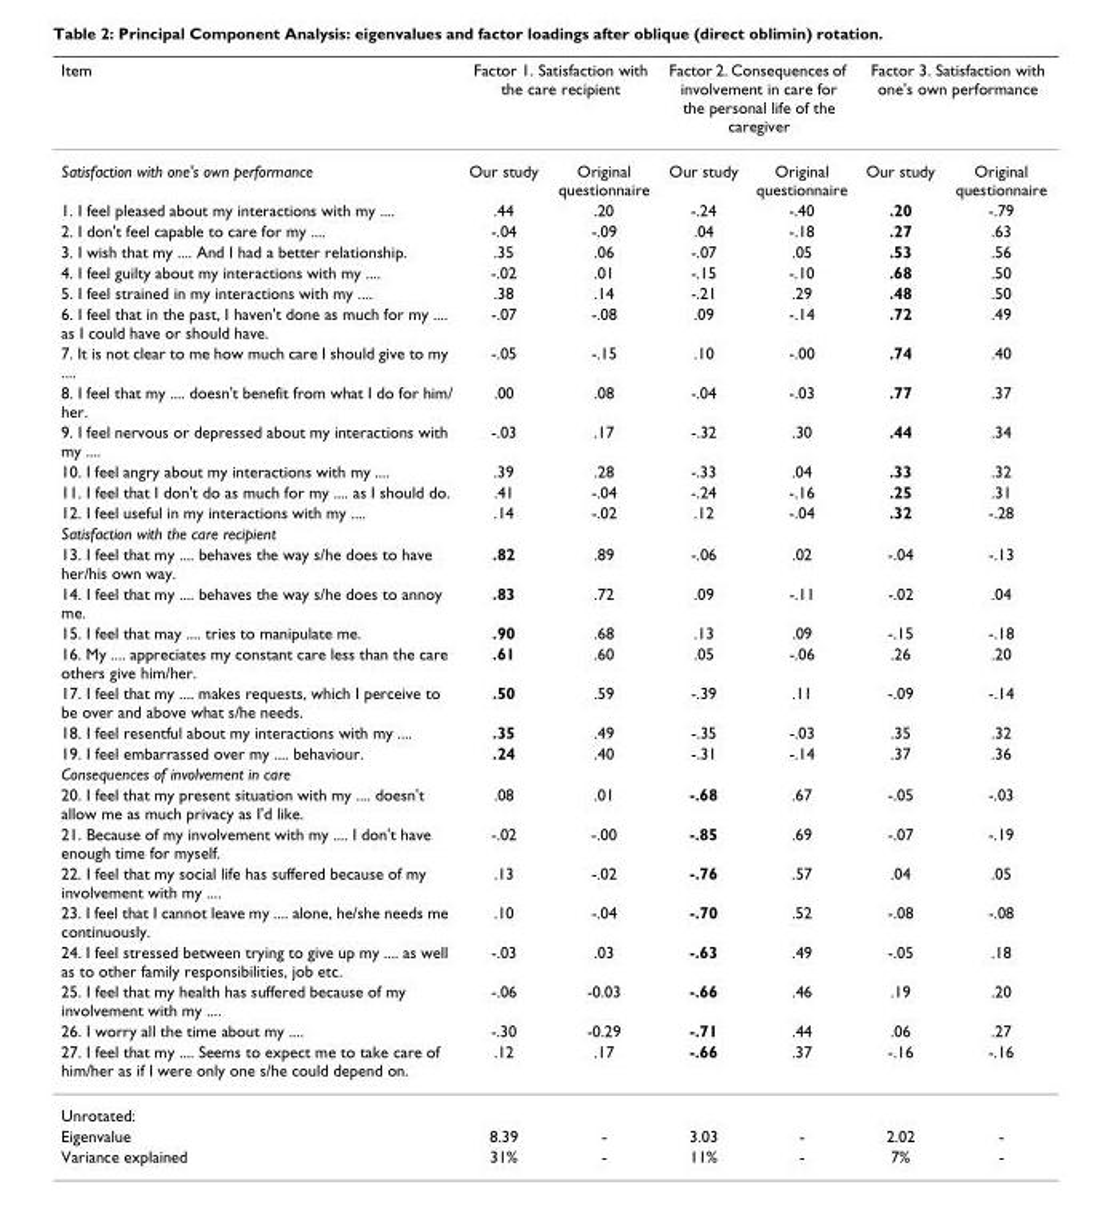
<table><thead><tr><td rowspan="2">Item Satisfaction with one&#x27;s own performance</td><td colspan="2">Factor 1. Satisfaction with the care recipient</td><td colspan="2">Factor 2. Consequences of involvement in care for the personal life of the caregiver</td><td colspan="2">Factor 3. Satisfaction with one&#x27;s own performance</td></tr><tr><td>Our study</td><td>Original questionnaire</td><td>Our study</td><td>Original questionnaire</td><td>Our study</td><td>Original questionnaire</td></tr></thead><tbody><tr><td>1. I feel pleased about my interactions with my ....</td><td>.44</td><td>.20</td><td>-.24</td><td>-.40</td><td>.20</td><td>-.79</td></tr><tr><td>2. I don&#x27;t feel capable to care for my ....</td><td>-.04</td><td>-.09</td><td>.04</td><td>-.18</td><td>.27</td><td>.63</td></tr><tr><td>3. I wish that my .... And I had a better relationship.</td><td>.35</td><td>.06</td><td>-.07</td><td>.05</td><td>.53</td><td>.56</td></tr><tr><td>4. I feel guilty about my interactions with my ....</td><td>-.02</td><td>.01</td><td>-.15</td><td>-.10</td><td>.68</td><td>.50</td></tr><tr><td>5. I feel strained in my interactions with my ....</td><td>.38</td><td>.14</td><td>-.21</td><td>.29</td><td>.48</td><td>.50</td></tr><tr><td>6. I feel that in the past, I haven&#x27;t done as much for my .... as I could have or should have.</td><td>-.07</td><td>-.08</td><td>.09</td><td>-.14</td><td>.72</td><td>.49</td></tr><tr><td>7. It is not clear to me how much care I should give to my ....</td><td>-.05</td><td>-.15</td><td>.10</td><td>-.00</td><td>.74</td><td>.40</td></tr><tr><td>8. I feel that my .... doesn&#x27;t benefit from what I do for him/ her.</td><td>.00</td><td>.08</td><td>-.04</td><td>-.03</td><td>.77</td><td>.37</td></tr><tr><td>9. I feel nervous or depressed about my interactions with my ....</td><td>-.03</td><td>.17</td><td>-.32</td><td>.30</td><td>.44</td><td>.34</td></tr><tr><td>10. I feel angry about my interactions with my ....</td><td>.39</td><td>.28</td><td>-.33</td><td>.04</td><td>.33</td><td>.32</td></tr><tr><td>11. I feel that I don&#x27;t do as much for my .... as I should do.</td><td>.41</td><td>-.04</td><td>-.24</td><td>-.16</td><td>.25</td><td>.31</td></tr><tr><td>12. I feel useful in my interactions with my ....</td><td>.14</td><td>-.02</td><td>.12</td><td>-.04</td><td>.32</td><td>-.28</td></tr><tr><td colspan="7">Satisfaction with the care recipient</td></tr><tr><td>13. I feel that my .... behaves the way s/he does to have her/his own way.</td><td>.82</td><td>.89</td><td>-.06</td><td>.02</td><td>-.04</td><td>-.13</td></tr><tr><td>14. I feel that my .... behaves the way s/he does to annoy me.</td><td>.83</td><td>.72</td><td>.09</td><td>-.11</td><td>-.02</td><td>.04</td></tr><tr><td>15. I feel that may .... tries to manipulate me.</td><td>.90</td><td>.68</td><td>.13</td><td>.09</td><td>-.15</td><td>-.18</td></tr><tr><td>16. My .... appreciates my constant care less than the care others give him/her.</td><td>.61</td><td>.60</td><td>.05</td><td>-.06</td><td>.26</td><td>.20</td></tr><tr><td>17. I feel that my .... makes requests, which I perceive to be over and above what s/he needs.</td><td>.50</td><td>.59</td><td>-.39</td><td>.11</td><td>-.09</td><td>-.14</td></tr><tr><td>18. I feel resentful about my interactions with my ....</td><td>.35</td><td>.49</td><td>-.35</td><td>-.03</td><td>.35</td><td>.32</td></tr><tr><td>19. I feel embarrassed over my .... behaviour.</td><td>.24</td><td>.40</td><td>-.31</td><td>-.14</td><td>.37</td><td>.36</td></tr><tr><td colspan="7">Consequences of involvement in care</td></tr><tr><td>20. I feel that my present situation with my .... doesn&#x27;t allow me as much privacy as I&#x27;d like.</td><td>.08</td><td>.01</td><td>-.68</td><td>.67</td><td>-.05</td><td>-.03</td></tr><tr><td>21. Because of my involvement with my .... I don&#x27;t have enough time for myself.</td><td>-.02</td><td>-.00</td><td>-.85</td><td>.69</td><td>-.07</td><td>-.19</td></tr><tr><td>22. I feel that my social life has suffered because of my involvement with my ....</td><td>.13</td><td>-.02</td><td>-.76</td><td>.57</td><td>.04</td><td>.05</td></tr><tr><td>23. I feel that I cannot leave my .... alone, he/she needs me continuously.</td><td>.10</td><td>-.04</td><td>-.70</td><td>.52</td><td>-.08</td><td>-.08</td></tr><tr><td>24. I feel stressed between trying to give up my .... as well as to other family responsibilities, job etc.</td><td>-.03</td><td>.03</td><td>-.63</td><td>.49</td><td>-.05</td><td>.18</td></tr><tr><td>25. I feel that my health has suffered because of my involvement with my ....</td><td>-.06</td><td>-0.03</td><td>-.66</td><td>.46</td><td>.19</td><td>.20</td></tr><tr><td>26. I worry all the time about my ....</td><td>-.30</td><td>-0.29</td><td>-.71</td><td>.44</td><td>.06</td><td>.27</td></tr><tr><td>27. I feel that my .... Seems to expect me to take care of him/her as if I were only one s/he could depend on.</td><td>.12</td><td>.17</td><td>-.66</td><td>.37</td><td>-.16</td><td>-.16</td></tr><tr><td colspan="7">Unrotated:</td></tr><tr><td>Eigenvalue</td><td>8.39</td><td>-</td><td>3.03</td><td>-</td><td>2.02</td><td>-</td></tr><tr><td>Variance explained</td><td>31%</td><td>-</td><td>11%</td><td>-</td><td>7%</td><td>-</td></tr></tbody></table>